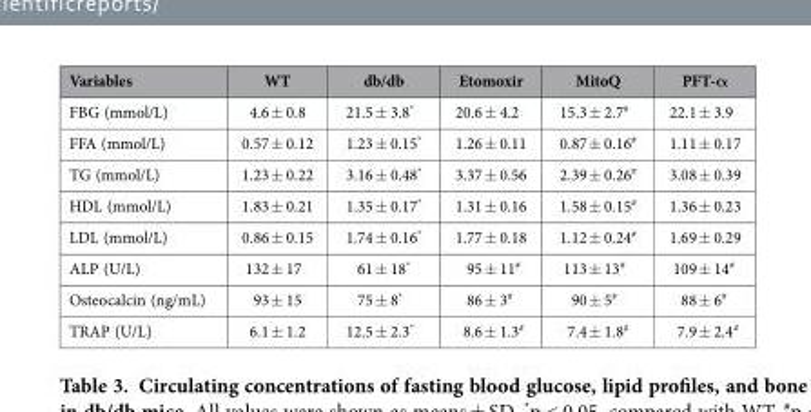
<table><thead><tr><td>Variables</td><td>WT</td><td>db/db</td><td>Etomoxir</td><td>MitoQ</td><td>PFT-α</td></tr></thead><tbody><tr><td>FBG (mmol/L)</td><td>4.6 ± 0.8</td><td>21.5 ± 3.8*</td><td>20.6 ± 4.2</td><td>15.3 ± 2.7<sup>#</sup></td><td>22.1 ± 3.9</td></tr><tr><td>FFA (mmol/L)</td><td>0.57 ± 0.12</td><td>1.23 ± 0.15*</td><td>1.26 ± 0.11</td><td>0.87 ± 0.16#</td><td>1.11 ± 0.17</td></tr><tr><td>TG (mmol/L)</td><td>1.23 ± 0.22</td><td>3.16 ± 0.48*</td><td>3.37 ± 0.56</td><td>2.39 ± 0.26#</td><td>3.08 ± 0.39</td></tr><tr><td>HDL (mmol/L)</td><td>1.83 ± 0.21</td><td>1.35 ± 0.17*</td><td>1.31 ± 0.16</td><td>1.58 ± 0.15#</td><td>1.36 ± 0.23</td></tr><tr><td>LDL (mmol/L)</td><td>0.86 ± 0.15</td><td>1.74 ± 0.16*</td><td>1.77 ± 0.18</td><td>1.12 ± 0.24#</td><td>1.69 ± 0.29</td></tr><tr><td>ALP (U/L)</td><td>132 ± 17</td><td>61 ± 18*</td><td>95 ± 11#</td><td>113 ± 13#</td><td>109 ± 14#</td></tr><tr><td>Osteocalcin (ng/mL)</td><td>93 ± 15</td><td>75 ± 8*</td><td>86 ± 3#</td><td>90 ± 5#</td><td>88 ± 6#</td></tr><tr><td>TRAP (U/L)</td><td>6.1 ± 1.2</td><td>12.5 ± 2.3*</td><td>8.6 ± 1.3#</td><td>7.4 ± 1.8#</td><td>7.9 ± 2.4#</td></tr></tbody></table>